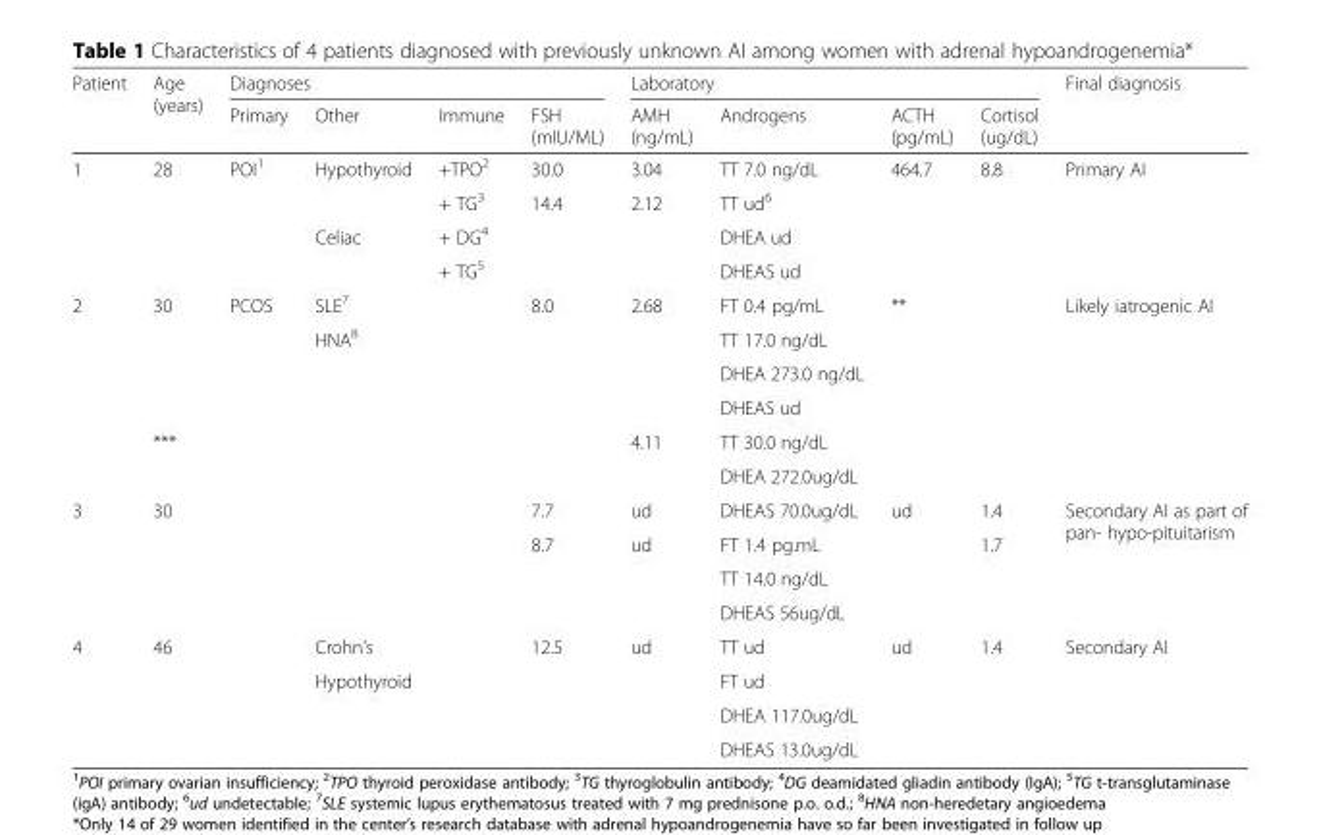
<table><thead><tr><td rowspan="2">Patient</td><td rowspan="2">Age (years)</td><td colspan="4">Diagnoses</td><td colspan="4">Laboratory</td><td rowspan="2">Final diagnosis</td></tr><tr><td>Primary</td><td>Other</td><td>Immune</td><td>FSH (mIU/ML)</td><td>AMH (ng/mL)</td><td>Androgens</td><td>ACTH (pg/mL)</td><td>Cortisol (ug/dL)</td></tr></thead><tbody><tr><td rowspan="4">1</td><td rowspan="4">28</td><td rowspan="4">POI<sup>1</sup></td><td rowspan="2">Hypothyroid</td><td>+TPO<sup>2</sup></td><td>30.0</td><td>3.04</td><td>TT 7.0 ng/dL</td><td rowspan="4">464.7</td><td rowspan="4">8.8</td><td rowspan="4">Primary AI</td></tr><tr><td>+ TG<sup>3</sup></td><td rowspan="3">14.4</td><td rowspan="3">2.12</td><td>TT ud<sup>6</sup></td></tr><tr><td rowspan="2">Celiac</td><td>+ DG<sup>4</sup></td><td>DHEA ud</td></tr><tr><td>+ TG<sup>5</sup></td><td>DHEAS ud</td></tr><tr><td rowspan="6">2</td><td rowspan="4">30</td><td rowspan="6">PCOS</td><td>SLE<sup>7</sup></td><td rowspan="6"></td><td rowspan="6">8.0</td><td rowspan="4">2.68</td><td>FT 0.4 pg/mL</td><td rowspan="6">**</td><td rowspan="6"></td><td rowspan="6">Likely iatrogenic AI</td></tr><tr><td rowspan="5">HNA<sup>8</sup></td><td>TT 17.0 ng/dL</td></tr><tr><td>DHEA 273.0 ng/dL</td></tr><tr><td>DHEAS ud</td></tr><tr><td rowspan="2">***</td><td rowspan="2">4.11</td><td>TT 30.0 ng/dL</td></tr><tr><td>DHEA 272.0ug/dL</td></tr><tr><td rowspan="4">3</td><td rowspan="4">30</td><td rowspan="4"></td><td rowspan="4"></td><td rowspan="4"></td><td>7.7</td><td>ud</td><td>DHEAS 70.0ug/dL</td><td>ud</td><td>1.4</td><td rowspan="4">Secondary AI as part of pan- hypo-pituitarism</td></tr><tr><td rowspan="3">8.7</td><td rowspan="3">ud</td><td>FT 1.4 pg.mL</td><td rowspan="3"></td><td rowspan="3">1.7</td></tr><tr><td>TT 14.0 ng/dL</td></tr><tr><td>DHEAS 56ug/dL</td></tr><tr><td rowspan="4">4</td><td rowspan="4">46</td><td rowspan="4"></td><td>Crohn’s</td><td rowspan="4"></td><td rowspan="4">12.5</td><td rowspan="4">ud</td><td>TT ud</td><td rowspan="4">ud</td><td rowspan="4">1.4</td><td rowspan="4">Secondary AI</td></tr><tr><td rowspan="3">Hypothyroid</td><td>FT ud</td></tr><tr><td>DHEA 117.0ug/dL</td></tr><tr><td>DHEAS 13.0ug/dL</td></tr></tbody></table>